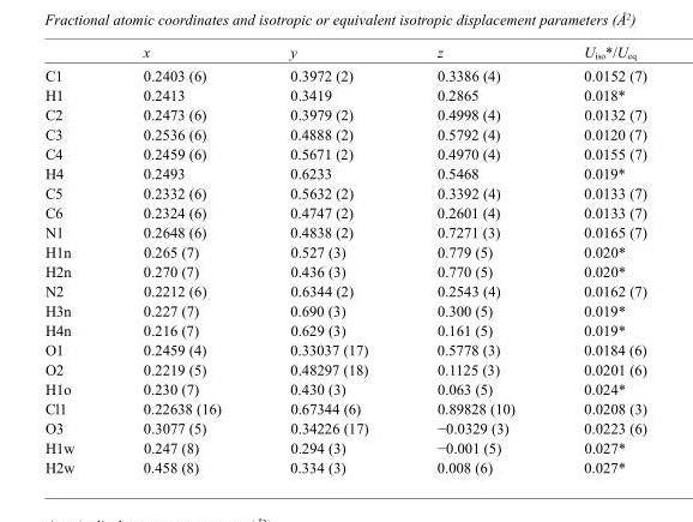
<table><thead><tr><td></td><td>x</td><td>y</td><td>z</td><td>U<sub>iso</sub>*/U<sub>eq</sub></td></tr></thead><tbody><tr><td>C1</td><td>0.2403 (6)</td><td>0.3972 (2)</td><td>0.3386 (4)</td><td>0.0152 (7)</td></tr><tr><td>H1</td><td>0.2413</td><td>0.3419</td><td>0.2865</td><td>0.018*</td></tr><tr><td>C2</td><td>0.2473 (6)</td><td>0.3979 (2)</td><td>0.4998 (4)</td><td>0.0132 (7)</td></tr><tr><td>C3</td><td>0.2536 (6)</td><td>0.4888 (2)</td><td>0.5792 (4)</td><td>0.0120 (7)</td></tr><tr><td>C4</td><td>0.2459 (6)</td><td>0.5671 (2)</td><td>0.4970 (4)</td><td>0.0155 (7)</td></tr><tr><td>H4</td><td>0.2493</td><td>0.6233</td><td>0.5468</td><td>0.019*</td></tr><tr><td>C5</td><td>0.2332 (6)</td><td>0.5632 (2)</td><td>0.3392 (4)</td><td>0.0133 (7)</td></tr><tr><td>C6</td><td>0.2324 (6)</td><td>0.4747 (2)</td><td>0.2601 (4)</td><td>0.0133 (7)</td></tr><tr><td>N1</td><td>0.2648 (6)</td><td>0.4838 (2)</td><td>0.7271 (3)</td><td>0.0165 (7)</td></tr><tr><td>H1n</td><td>0.265 (7)</td><td>0.527 (3)</td><td>0.779 (5)</td><td>0.020*</td></tr><tr><td>H2n</td><td>0.270 (7)</td><td>0.436 (3)</td><td>0.770 (5)</td><td>0.020*</td></tr><tr><td>N2</td><td>0.2212 (6)</td><td>0.6344 (2)</td><td>0.2543 (4)</td><td>0.0162 (7)</td></tr><tr><td>H3n</td><td>0.227 (7)</td><td>0.690 (3)</td><td>0.300 (5)</td><td>0.019*</td></tr><tr><td>H4n</td><td>0.216 (7)</td><td>0.629 (3)</td><td>0.161 (5)</td><td>0.019*</td></tr><tr><td>O1</td><td>0.2459 (4)</td><td>0.33037 (17)</td><td>0.5778 (3)</td><td>0.0184 (6)</td></tr><tr><td>O2</td><td>0.2219 (5)</td><td>0.48297 (18)</td><td>0.1125 (3)</td><td>0.0201 (6)</td></tr><tr><td>H1o</td><td>0.230 (7)</td><td>0.430 (3)</td><td>0.063 (5)</td><td>0.024*</td></tr><tr><td>Cl1</td><td>0.22638 (16)</td><td>0.67344 (6)</td><td>0.89828 (10)</td><td>0.0208 (3)</td></tr><tr><td>O3</td><td>0.3077 (5)</td><td>0.34226 (17)</td><td>−0.0329 (3)</td><td>0.0223 (6)</td></tr><tr><td>H1w</td><td>0.247 (8)</td><td>0.294 (3)</td><td>−0.001 (5)</td><td>0.027*</td></tr><tr><td>H2w</td><td>0.458 (8)</td><td>0.334 (3)</td><td>0.008 (6)</td><td>0.027*</td></tr></tbody></table>